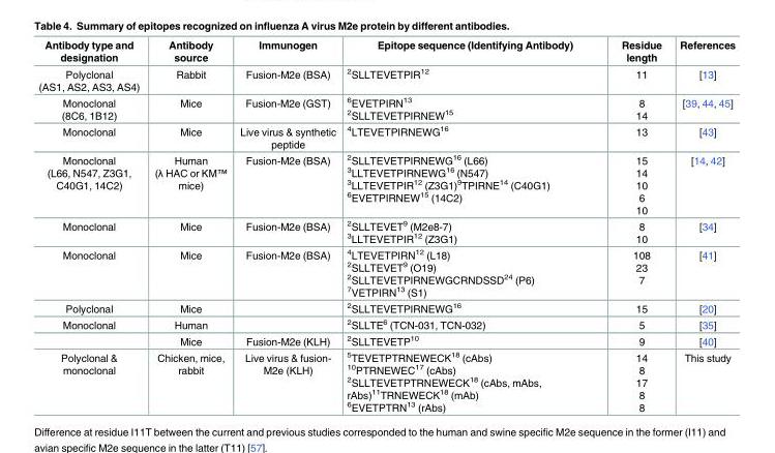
<table><thead><tr><td>Antibody type and designation</td><td>Antibody source</td><td>Immunogen</td><td>Epitope sequence (Identifying Antibody)</td><td>Residue length</td><td>References</td></tr></thead><tbody><tr><td>Polyclonal (AS1, AS2, AS3, AS4)</td><td>Rabbit</td><td>Fusion-M2e (BSA)</td><td><sup>2</sup>SLLTEVETPIR<sup>12</sup></td><td>11</td><td>[13]</td></tr><tr><td>Monoclonal (8C6, 1B12)</td><td>Mice</td><td>Fusion-M2e (GST)</td><td><sup>6</sup>EVETPIRN<sup>13 2</sup>SLLTEVETPIRNEW<sup>15</sup></td><td>8 14</td><td>[39, 44, 45]</td></tr><tr><td>Monoclonal</td><td>Mice</td><td>Live virus &amp; synthetic peptide</td><td><sup>4</sup>LTEVETPIRNEWG<sup>16</sup></td><td>13</td><td>[43]</td></tr><tr><td>Monoclonal (L66, N547, Z3G1, C40G1, 14C2)</td><td>Human (λ HAC or KM<sup>™</sup> mice)</td><td>Fusion-M2e (BSA)</td><td><sup>2</sup>SLLTEVETPIRNEWG<sup>16</sup> (L66) <sup>3</sup>LLTEVETPIRNEWG<sup>16</sup> (N547) <sup>3</sup>LLTEVETPIR<sup>12</sup> (Z3G1)<sup>9</sup>TPIRNE<sup>14</sup> (C40G1) <sup>6</sup>EVETPIRNEW<sup>15</sup> (14C2)</td><td>15 14 10 6 10</td><td>[14, 42]</td></tr><tr><td>Monoclonal</td><td>Mice</td><td>Fusion-M2e (BSA)</td><td><sup>2</sup>SLLTEVET<sup>9</sup> (M2e8-7) <sup>3</sup>LLTEVETPIR<sup>12</sup> (Z3G1)</td><td>8 10</td><td>[34]</td></tr><tr><td>Monoclonal</td><td>Mice</td><td>Fusion-M2e (BSA)</td><td><sup>4</sup>LTEVETPIRN<sup>12</sup> (L18) <sup>2</sup>SLLTEVET<sup>9</sup> (O19) <sup>2</sup>SLLTEVETPIRNEWGCRNDSSD<sup>24</sup> (P6) <sup>7</sup>VETPIRN<sup>13</sup> (S1)</td><td>108 23 7</td><td>[41]</td></tr><tr><td>Polyclonal</td><td>Mice</td><td></td><td><sup>2</sup>SLLTEVETPIRNEWG<sup>16</sup></td><td>15</td><td>[20]</td></tr><tr><td rowspan="2">Monoclonal</td><td>Human</td><td></td><td><sup>2</sup>SLLTE<sup>6</sup> (TCN-031, TCN-032)</td><td>5</td><td>[35]</td></tr><tr><td>Mice</td><td>Fusion-M2e (KLH)</td><td><sup>2</sup>SLLTEVETP<sup>10</sup></td><td>9</td><td>[40]</td></tr><tr><td>Polyclonal &amp; monoclonal</td><td>Chicken, mice, rabbit</td><td>Live virus &amp; fusion- M2e (KLH)</td><td><sup>5</sup>TEVETPTRNEWECK<sup>18</sup> (cAbs) <sup>10</sup>PTRNEWEC<sup>17</sup> (cAbs) <sup>2</sup>SLLTEVETPTRNEWECK<sup>18</sup> (cAbs, mAbs, rAbs)<sup>11</sup>TRNEWECK<sup>18</sup> (mAb) <sup>6</sup>EVETPTRN<sup>13</sup> (rAbs)</td><td>14 8 17 8 8</td><td>This study</td></tr></tbody></table>